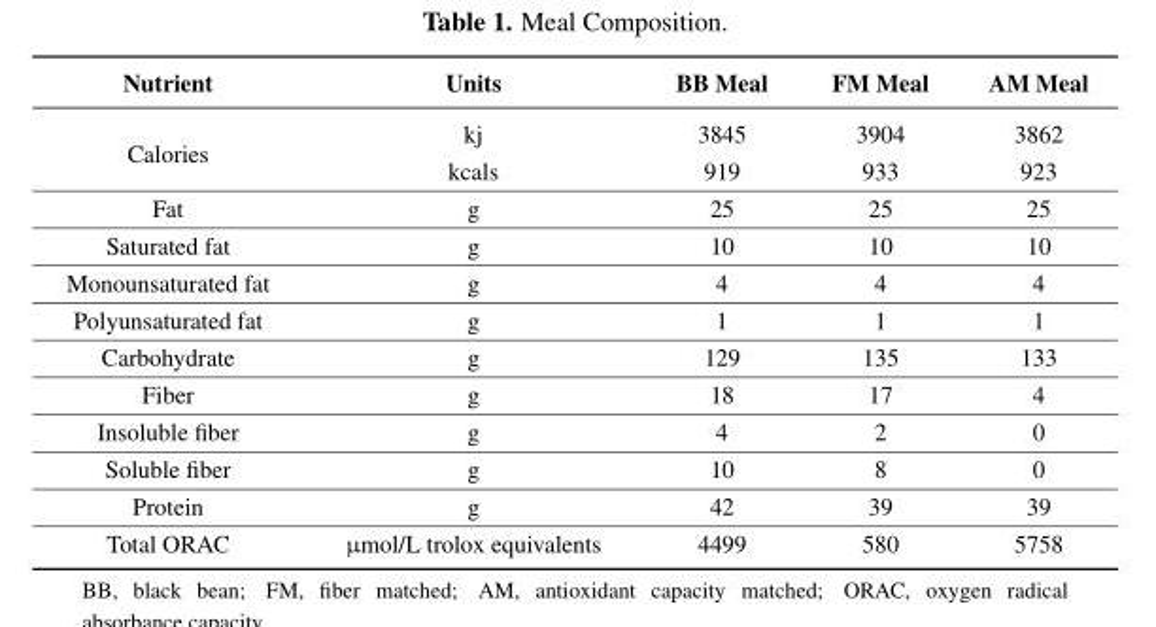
<table><thead><tr><td>Nutrient</td><td>Units</td><td>BB Meal</td><td>FM Meal</td><td>AM Meal</td></tr></thead><tbody><tr><td rowspan="2">Calories</td><td>kj</td><td>3845</td><td>3904</td><td>3862</td></tr><tr><td>kcals</td><td>919</td><td>933</td><td>923</td></tr><tr><td>Fat</td><td>g</td><td>25</td><td>25</td><td>25</td></tr><tr><td>Saturated fat</td><td>g</td><td>10</td><td>10</td><td>10</td></tr><tr><td>Monounsaturated fat</td><td>g</td><td>4</td><td>4</td><td>4</td></tr><tr><td>Polyunsaturated fat</td><td>g</td><td>1</td><td>1</td><td>1</td></tr><tr><td>Carbohydrate</td><td>g</td><td>129</td><td>135</td><td>133</td></tr><tr><td>Fiber</td><td>g</td><td>18</td><td>17</td><td>4</td></tr><tr><td>Insoluble fiber</td><td>g</td><td>4</td><td>2</td><td>0</td></tr><tr><td>Soluble fiber</td><td>g</td><td>10</td><td>8</td><td>0</td></tr><tr><td>Protein</td><td>g</td><td>42</td><td>39</td><td>39</td></tr><tr><td>Total ORAC</td><td>µmol/L trolox equivalents</td><td>4499</td><td>580</td><td>5758</td></tr></tbody></table>